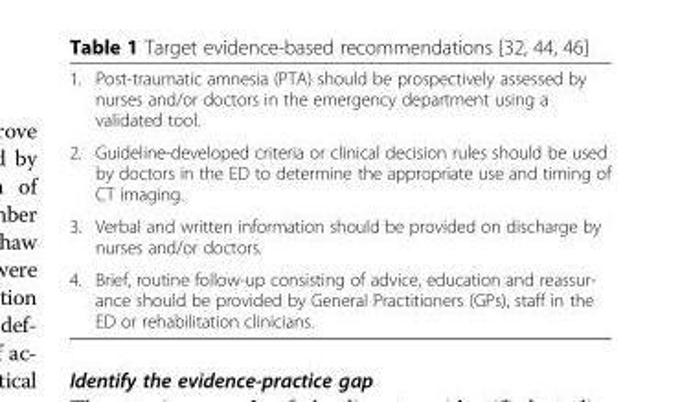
<table><tbody><tr><td>1.</td><td>Post-traumatic amnesia (PTA) should be prospectively assessed by nurses and/or doctors in the emergency department using a validated tool.</td></tr><tr><td>2.</td><td>Guideline-developed criteria or clinical decision rules should be used by doctors in the ED to determine the appropriate use and timing of CT imaging.</td></tr><tr><td>3.</td><td>Verbal and written information should be provided on discharge by nurses and/or doctors.</td></tr><tr><td>4.</td><td>Brief, routine follow-up consisting of advice, education and reassur- ance should be provided by General Practitioners (GPs), staff in the ED or rehabilitation clinicians.</td></tr></tbody></table>